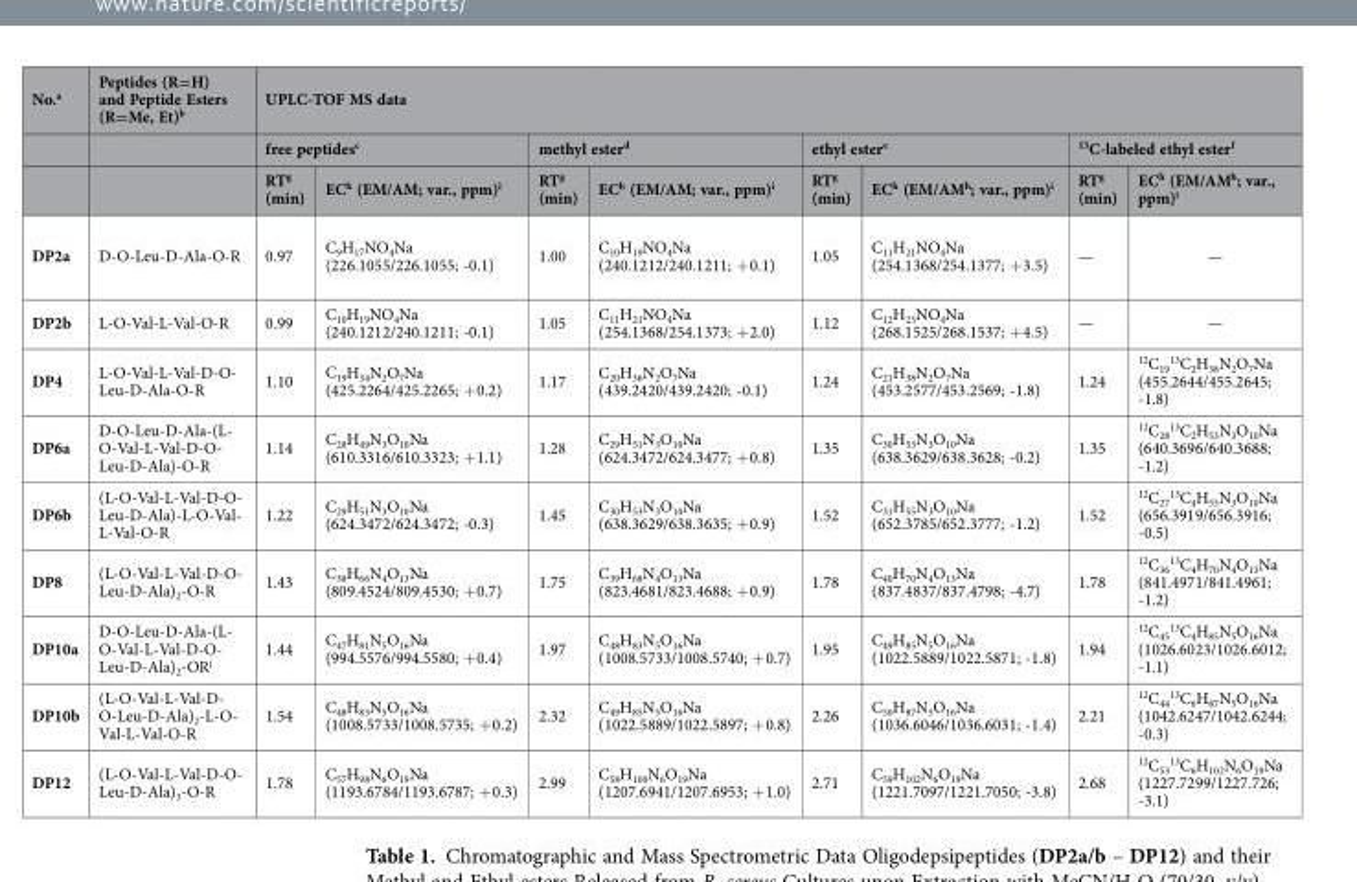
<table><tbody><tr><td rowspan="3">No.<sup>a</sup></td><td>Peptides (R=H) and Peptide Esters (R=Me, Et)<sup>b</sup></td><td colspan="8">UPLC-TOF MS data</td></tr><tr><td></td><td colspan="2">free peptides<sup>c</sup></td><td colspan="2">methyl ester<sup>d</sup></td><td colspan="2">ethyl ester<sup>e</sup></td><td colspan="2"><sup>13</sup>C-labeled ethyl ester<sup>f</sup></td></tr><tr><td></td><td>RT<sup>g</sup> (min)</td><td>EC<sup>h</sup> (EM/AM; var., ppm)<sup>i</sup></td><td>RT<sup>g</sup> (min)</td><td>EC<sup>h</sup> (EM/AM; var., ppm)<sup>i</sup></td><td>RT<sup>g</sup> (min)</td><td>EC<sup>h</sup> (EM/AM<sup>h</sup>; var., ppm)<sup>i</sup></td><td>RT<sup>g</sup> (min)</td><td>EC<sup>h</sup> (EM/AM<sup>h</sup>; var., ppm)<sup>i</sup></td></tr><tr><td>DP2a</td><td>D-O-Leu-D-Ala-O-R</td><td>0.97</td><td>C<sub>9</sub>H<sub>17</sub>NO<sub>4</sub>Na (226.1055/226.1055; -0.1)</td><td>1.00</td><td>C<sub>10</sub>H<sub>19</sub>NO<sub>4</sub>Na (240.1212/240.1211; + 0.1)</td><td>1.05</td><td>C<sub>11</sub>H<sub>21</sub>NO<sub>4</sub>Na (254.1368/254.1377; + 3.5)</td><td>—</td><td>—</td></tr><tr><td>DP2b</td><td>L-O-Val-L-Val-O-R</td><td>0.99</td><td>C<sub>10</sub>H<sub>19</sub>NO<sub>4</sub>Na (240.1212/240.1211; -0.1)</td><td>1.05</td><td>C<sub>11</sub>H<sub>21</sub>NO<sub>4</sub>Na (254.1368/254.1373; + 2.0)</td><td>1.12</td><td>C<sub>12</sub>H<sub>23</sub>NO<sub>4</sub>Na (268.1525/268.1537; + 4.5)</td><td>—</td><td>—</td></tr><tr><td>DP4</td><td>L-O-Val-L-Val-D-O- Leu-D-Ala-O-R</td><td>1.10</td><td>C<sub>19</sub>H<sub>34</sub>N<sub>2</sub>O<sub>7</sub>Na (425.2264/425.2265; + 0.2)</td><td>1.17</td><td>C<sub>20</sub>H<sub>36</sub>N<sub>2</sub>O<sub>7</sub>Na (439.2420/439.2420; -0.1)</td><td>1.24</td><td>C<sub>21</sub>H<sub>38</sub>N<sub>2</sub>O<sub>7</sub>Na (453.2577/453.2569; -1.8)</td><td>1.24</td><td><sup>12</sup>C<sub>19</sub> <sup>13</sup>C<sub>2</sub>H<sub>38</sub>N<sub>2</sub>O<sub>7</sub>Na (455.2644/455.2645; -1.8)</td></tr><tr><td>DP6a</td><td>D-O-Leu-D-Ala-(L- O-Val-L-Val-D-O- Leu-D-Ala)-O-R</td><td>1.14</td><td>C<sub>28</sub>H<sub>49</sub>N<sub>3</sub>O<sub>10</sub>Na (610.3316/610.3323; + 1.1)</td><td>1.28</td><td>C<sub>29</sub>H<sub>51</sub>N<sub>3</sub>O<sub>10</sub>Na (624.3472/624.3477; + 0.8)</td><td>1.35</td><td>C<sub>30</sub>H<sub>53</sub>N<sub>3</sub>O<sub>10</sub>Na (638.3629/638.3628; -0.2)</td><td>1.35</td><td><sup>12</sup>C<sub>28</sub> <sup>13</sup>C<sub>2</sub>H<sub>53</sub>N<sub>3</sub>O<sub>10</sub>Na (640.3696/640.3688; -1.2)</td></tr><tr><td>DP6b</td><td>(L-O-Val-L-Val-D-O- Leu-D-Ala)-L-O-Val- L-Val-O-R</td><td>1.22</td><td>C<sub>29</sub>H<sub>51</sub>N<sub>3</sub>O<sub>10</sub>Na (624.3472/624.3472; -0.3)</td><td>1.45</td><td>C<sub>30</sub>H<sub>53</sub>N<sub>3</sub>O<sub>10</sub>Na (638.3629/638.3635; + 0.9)</td><td>1.52</td><td>C<sub>31</sub>H<sub>55</sub>N<sub>3</sub>O<sub>10</sub>Na (652.3785/652.3777; -1.2)</td><td>1.52</td><td><sup>12</sup>C<sub>27</sub> <sup>13</sup>C<sub>4</sub>H<sub>55</sub>N<sub>3</sub>O<sub>10</sub>Na (656.3919/656.3916; -0.5)</td></tr><tr><td>DP8</td><td>(L-O-Val-L-Val-D-O- Leu-D-Ala)<sub>2</sub>-O-R</td><td>1.43</td><td>C<sub>38</sub>H<sub>66</sub>N<sub>4</sub>O<sub>13</sub>Na (809.4524/809.4530; + 0.7)</td><td>1.75</td><td>C<sub>39</sub>H<sub>68</sub>N<sub>4</sub>O<sub>13</sub>Na (823.4681/823.4688; + 0.9)</td><td>1.78</td><td>C<sub>40</sub>H<sub>70</sub>N<sub>4</sub>O<sub>13</sub>Na (837.4837/837.4798; -4.7)</td><td>1.78</td><td><sup>12</sup>C<sub>36</sub> <sup>13</sup>C<sub>4</sub>H<sub>70</sub>N<sub>4</sub>O<sub>13</sub>Na (841.4971/841.4961; -1.2)</td></tr><tr><td>DP10a</td><td>D-O-Leu-D-Ala-(L- O-Val-L-Val-D-O- Leu-D-Ala)<sub>2</sub>-OR<sup>j</sup></td><td>1.44</td><td>C<sub>47</sub>H<sub>81</sub>N<sub>5</sub>O<sub>16</sub>Na (994.5576/994.5580; + 0.4)</td><td>1.97</td><td>C<sub>48</sub>H<sub>83</sub>N<sub>5</sub>O<sub>16</sub>Na (1008.5733/1008.5740; + 0.7)</td><td>1.95</td><td>C<sub>49</sub>H<sub>85</sub>N<sub>5</sub>O<sub>16</sub>Na (1022.5889/1022.5871; -1.8)</td><td>1.94</td><td><sup>12</sup>C<sub>45</sub> <sup>13</sup>C<sub>4</sub>H<sub>85</sub>N<sub>5</sub>O<sub>16</sub>Na (1026.6023/1026.6012; -1.1)</td></tr><tr><td>DP10b</td><td>(L-O-Val-L-Val-D- O-Leu-D-Ala)<sub>2</sub>-L-O- Val-L-Val-O-R</td><td>1.54</td><td>C<sub>48</sub>H<sub>83</sub>N<sub>5</sub>O<sub>16</sub>Na (1008.5733/1008.5735; + 0.2)</td><td>2.32</td><td>C<sub>49</sub>H<sub>85</sub>N<sub>5</sub>O<sub>16</sub>Na (1022.5889/1022.5897; + 0.8)</td><td>2.26</td><td>C<sub>50</sub>H<sub>87</sub>N<sub>5</sub>O<sub>16</sub>Na (1036.6046/1036.6031; -1.4)</td><td>2.21</td><td><sup>12</sup>C<sub>44</sub> <sup>13</sup>C<sub>6</sub>H<sub>87</sub>N<sub>5</sub>O<sub>16</sub>Na (1042.6247/1042.6244; -0.3)</td></tr><tr><td>DP12</td><td>(L-O-Val-L-Val-D-O- Leu-D-Ala)<sub>3</sub>-O-R</td><td>1.78</td><td>C<sub>57</sub>H<sub>98</sub>N<sub>6</sub>O<sub>19</sub>Na (1193.6784/1193.6787; + 0.3)</td><td>2.99</td><td>C<sub>58</sub>H<sub>100</sub>N<sub>6</sub>O<sub>19</sub>Na (1207.6941/1207.6953; + 1.0)</td><td>2.71</td><td>C<sub>59</sub>H<sub>102</sub>N<sub>6</sub>O<sub>19</sub>Na (1221.7097/1221.7050; -3.8)</td><td>2.68</td><td><sup>12</sup>C<sub>53</sub> <sup>13</sup>C<sub>6</sub>H<sub>102</sub>N<sub>6</sub>O<sub>19</sub>Na (1227.7299/1227.726; -3.1)</td></tr></tbody></table>